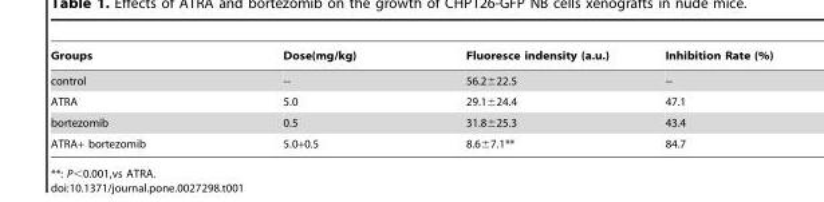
<table><thead><tr><td>Groups</td><td>Dose(mg/kg)</td><td>Fluoresce indensity (a.u.)</td><td>Inhibition Rate (%)</td></tr></thead><tbody><tr><td>control</td><td>--</td><td>56.2±22.5</td><td>--</td></tr><tr><td>ATRA</td><td>5.0</td><td>29.1±24.4</td><td>47.1</td></tr><tr><td>bortezomib</td><td>0.5</td><td>31.8±25.3</td><td>43.4</td></tr><tr><td>ATRA+ bortezomib</td><td>5.0+0.5</td><td>8.6±7.1**</td><td>84.7</td></tr></tbody></table>